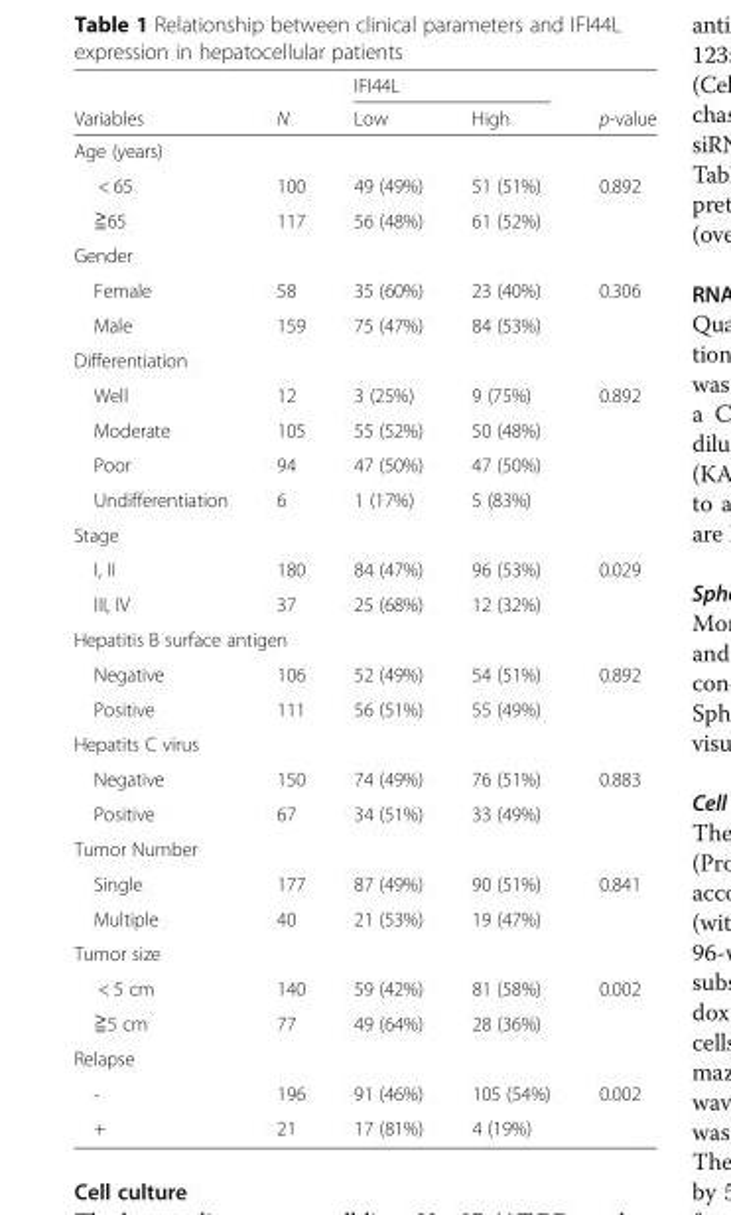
<table><thead><tr><td rowspan="2">Variables</td><td rowspan="2">N</td><td colspan="2">IFI44L</td><td rowspan="2">p-value</td></tr><tr><td>Low</td><td>High</td></tr></thead><tbody><tr><td colspan="5">Age (years)</td></tr><tr><td>&lt; 65</td><td>100</td><td>49 (49%)</td><td>51 (51%)</td><td>0.892</td></tr><tr><td>≧65</td><td>117</td><td>56 (48%)</td><td>61 (52%)</td><td></td></tr><tr><td colspan="5">Gender</td></tr><tr><td>Female</td><td>58</td><td>35 (60%)</td><td>23 (40%)</td><td>0.306</td></tr><tr><td>Male</td><td>159</td><td>75 (47%)</td><td>84 (53%)</td><td></td></tr><tr><td colspan="5">Differentiation</td></tr><tr><td>Well</td><td>12</td><td>3 (25%)</td><td>9 (75%)</td><td>0.892</td></tr><tr><td>Moderate</td><td>105</td><td>55 (52%)</td><td>50 (48%)</td><td></td></tr><tr><td>Poor</td><td>94</td><td>47 (50%)</td><td>47 (50%)</td><td></td></tr><tr><td>Undifferentiation</td><td>6</td><td>1 (17%)</td><td>5 (83%)</td><td></td></tr><tr><td colspan="5">Stage</td></tr><tr><td>I, II</td><td>180</td><td>84 (47%)</td><td>96 (53%)</td><td>0.029</td></tr><tr><td>III, IV</td><td>37</td><td>25 (68%)</td><td>12 (32%)</td><td></td></tr><tr><td colspan="5">Hepatitis B surface antigen</td></tr><tr><td>Negative</td><td>106</td><td>52 (49%)</td><td>54 (51%)</td><td>0.892</td></tr><tr><td>Positive</td><td>111</td><td>56 (51%)</td><td>55 (49%)</td><td></td></tr><tr><td colspan="5">Hepatits C virus</td></tr><tr><td>Negative</td><td>150</td><td>74 (49%)</td><td>76 (51%)</td><td>0.883</td></tr><tr><td>Positive</td><td>67</td><td>34 (51%)</td><td>33 (49%)</td><td></td></tr><tr><td colspan="5">Tumor Number</td></tr><tr><td>Single</td><td>177</td><td>87 (49%)</td><td>90 (51%)</td><td>0.841</td></tr><tr><td>Multiple</td><td>40</td><td>21 (53%)</td><td>19 (47%)</td><td></td></tr><tr><td colspan="5">Tumor size</td></tr><tr><td>&lt; 5 cm</td><td>140</td><td>59 (42%)</td><td>81 (58%)</td><td>0.002</td></tr><tr><td>≧5 cm</td><td>77</td><td>49 (64%)</td><td>28 (36%)</td><td></td></tr><tr><td colspan="5">Relapse</td></tr><tr><td>-</td><td>196</td><td>91 (46%)</td><td>105 (54%)</td><td>0.002</td></tr><tr><td>+</td><td>21</td><td>17 (81%)</td><td>4 (19%)</td><td></td></tr></tbody></table>